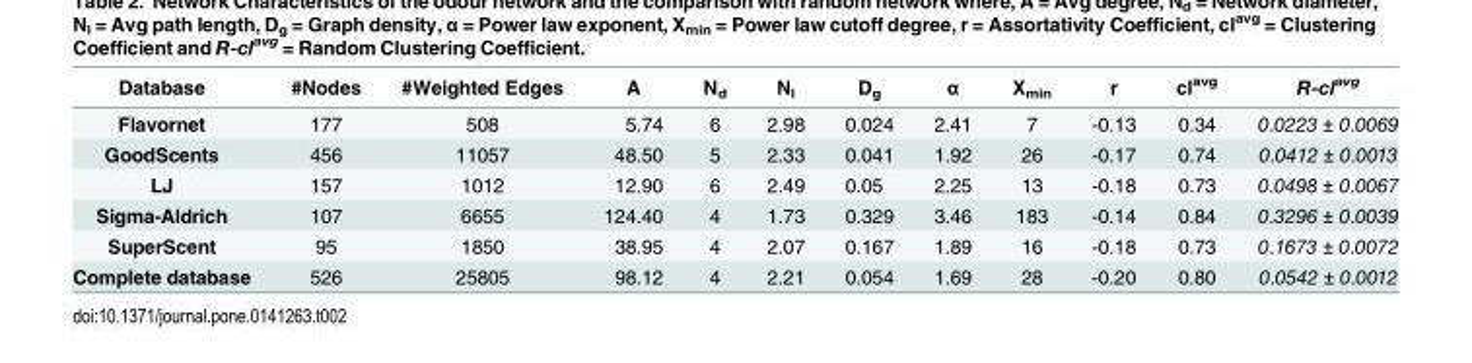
<table><thead><tr><td>Database</td><td>#Nodes</td><td>#Weighted Edges</td><td>A</td><td>N<sub>d</sub></td><td>N<sub>l</sub></td><td>D<sub>g</sub></td><td>α</td><td>X<sub>min</sub></td><td>r</td><td>cl<sup>avg</sup></td><td>R-cl<sup>avg</sup></td></tr></thead><tbody><tr><td>Flavornet</td><td>177</td><td>508</td><td>5.74</td><td>6</td><td>2.98</td><td>0.024</td><td>2.41</td><td>7</td><td>-0.13</td><td>0.34</td><td>0.0223 ± 0.0069</td></tr><tr><td>GoodScents</td><td>456</td><td>11057</td><td>48.50</td><td>5</td><td>2.33</td><td>0.041</td><td>1.92</td><td>26</td><td>-0.17</td><td>0.74</td><td>0.0412 ± 0.0013</td></tr><tr><td>LJ</td><td>157</td><td>1012</td><td>12.90</td><td>6</td><td>2.49</td><td>0.05</td><td>2.25</td><td>13</td><td>-0.18</td><td>0.73</td><td>0.0498 ± 0.0067</td></tr><tr><td>Sigma-Aldrich</td><td>107</td><td>6655</td><td>124.40</td><td>4</td><td>1.73</td><td>0.329</td><td>3.46</td><td>183</td><td>-0.14</td><td>0.84</td><td>0.3296 ± 0.0039</td></tr><tr><td>SuperScent</td><td>95</td><td>1850</td><td>38.95</td><td>4</td><td>2.07</td><td>0.167</td><td>1.89</td><td>16</td><td>-0.18</td><td>0.73</td><td>0.1673 ± 0.0072</td></tr><tr><td>Complete database</td><td>526</td><td>25805</td><td>98.12</td><td>4</td><td>2.21</td><td>0.054</td><td>1.69</td><td>28</td><td>-0.20</td><td>0.80</td><td>0.0542 ± 0.0012</td></tr></tbody></table>